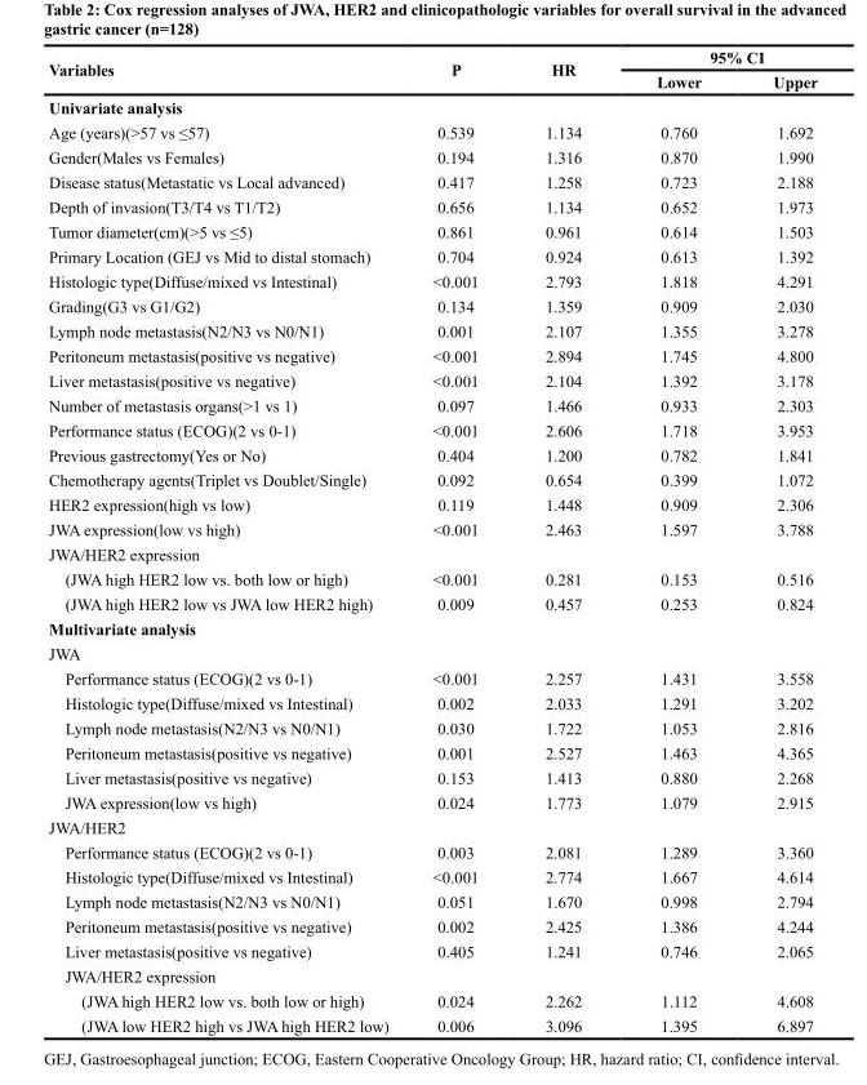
<table><thead><tr><td rowspan="2">Variables</td><td rowspan="2">P</td><td rowspan="2">HR</td><td colspan="2">95% CI</td></tr><tr><td>Lower</td><td>Upper</td></tr></thead><tbody><tr><td colspan="5">Univariate analysis</td></tr><tr><td>Age (years)(&gt;57 vs ≤57)</td><td>0.539</td><td>1.134</td><td>0.760</td><td>1.692</td></tr><tr><td>Gender(Males vs Females)</td><td>0.194</td><td>1.316</td><td>0.870</td><td>1.990</td></tr><tr><td>Disease status(Metastatic vs Local advanced)</td><td>0.417</td><td>1.258</td><td>0.723</td><td>2.188</td></tr><tr><td>Depth of invasion(T3/T4 vs T1/T2)</td><td>0.656</td><td>1.134</td><td>0.652</td><td>1.973</td></tr><tr><td>Tumor diameter(cm)(&gt;5 vs ≤5)</td><td>0.861</td><td>0.961</td><td>0.614</td><td>1.503</td></tr><tr><td>Primary Location (GEJ vs Mid to distal stomach)</td><td>0.704</td><td>0.924</td><td>0.613</td><td>1.392</td></tr><tr><td>Histologic type(Diffuse/mixed vs Intestinal)</td><td>&lt;0.001</td><td>2.793</td><td>1.818</td><td>4.291</td></tr><tr><td>Grading(G3 vs G1/G2)</td><td>0.134</td><td>1.359</td><td>0.909</td><td>2.030</td></tr><tr><td>Lymph node metastasis(N2/N3 vs N0/N1)</td><td>0.001</td><td>2.107</td><td>1.355</td><td>3.278</td></tr><tr><td>Peritoneum metastasis(positive vs negative)</td><td>&lt;0.001</td><td>2.894</td><td>1.745</td><td>4.800</td></tr><tr><td>Liver metastasis(positive vs negative)</td><td>&lt;0.001</td><td>2.104</td><td>1.392</td><td>3.178</td></tr><tr><td>Number of metastasis organs(&gt;1 vs 1)</td><td>0.097</td><td>1.466</td><td>0.933</td><td>2.303</td></tr><tr><td>Performance status (ECOG)(2 vs 0-1)</td><td>&lt;0.001</td><td>2.606</td><td>1.718</td><td>3.953</td></tr><tr><td>Previous gastrectomy(Yes or No)</td><td>0.404</td><td>1.200</td><td>0.782</td><td>1.841</td></tr><tr><td>Chemotherapy agents(Triplet vs Doublet/Single)</td><td>0.092</td><td>0.654</td><td>0.399</td><td>1.072</td></tr><tr><td>HER2 expression(high vs low)</td><td>0.119</td><td>1.448</td><td>0.909</td><td>2.306</td></tr><tr><td>JWA expression(low vs high)</td><td>&lt;0.001</td><td>2.463</td><td>1.597</td><td>3.788</td></tr><tr><td colspan="5">JWA/HER2 expression</td></tr><tr><td>(JWA high HER2 low vs. both low or high)</td><td>&lt;0.001</td><td>0.281</td><td>0.153</td><td>0.516</td></tr><tr><td>(JWA high HER2 low vs JWA low HER2 high)</td><td>0.009</td><td>0.457</td><td>0.253</td><td>0.824</td></tr><tr><td colspan="5">Multivariate analysis</td></tr><tr><td colspan="5">JWA</td></tr><tr><td>Performance status (ECOG)(2 vs 0-1)</td><td>&lt;0.001</td><td>2.257</td><td>1.431</td><td>3.558</td></tr><tr><td>Histologic type(Diffuse/mixed vs Intestinal)</td><td>0.002</td><td>2.033</td><td>1.291</td><td>3.202</td></tr><tr><td>Lymph node metastasis(N2/N3 vs N0/N1)</td><td>0.030</td><td>1.722</td><td>1.053</td><td>2.816</td></tr><tr><td>Peritoneum metastasis(positive vs negative)</td><td>0.001</td><td>2.527</td><td>1.463</td><td>4.365</td></tr><tr><td>Liver metastasis(positive vs negative)</td><td>0.153</td><td>1.413</td><td>0.880</td><td>2.268</td></tr><tr><td>JWA expression(low vs high)</td><td>0.024</td><td>1.773</td><td>1.079</td><td>2.915</td></tr><tr><td colspan="5">JWA/HER2</td></tr><tr><td>Performance status (ECOG)(2 vs 0-1)</td><td>0.003</td><td>2.081</td><td>1.289</td><td>3.360</td></tr><tr><td>Histologic type(Diffuse/mixed vs Intestinal)</td><td>&lt;0.001</td><td>2.774</td><td>1.667</td><td>4.614</td></tr><tr><td>Lymph node metastasis(N2/N3 vs N0/N1)</td><td>0.051</td><td>1.670</td><td>0.998</td><td>2.794</td></tr><tr><td>Peritoneum metastasis(positive vs negative)</td><td>0.002</td><td>2.425</td><td>1.386</td><td>4.244</td></tr><tr><td>Liver metastasis(positive vs negative)</td><td>0.405</td><td>1.241</td><td>0.746</td><td>2.065</td></tr><tr><td colspan="5">JWA/HER2 expression</td></tr><tr><td>(JWA high HER2 low vs. both low or high)</td><td>0.024</td><td>2.262</td><td>1.112</td><td>4.608</td></tr><tr><td>(JWA low HER2 high vs JWA high HER2 low)</td><td>0.006</td><td>3.096</td><td>1.395</td><td>6.897</td></tr></tbody></table>